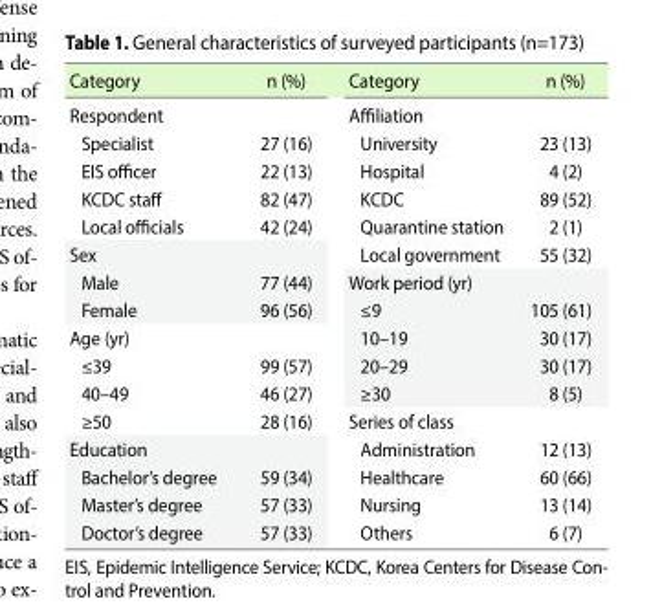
<table><thead><tr><td>Category</td><td>n (%)</td><td>Category</td><td>n (%)</td></tr></thead><tbody><tr><td>Respondent</td><td></td><td>Affiliation</td><td></td></tr><tr><td>Specialist</td><td>27 (16)</td><td>University</td><td>23 (13)</td></tr><tr><td>EIS officer</td><td>22 (13)</td><td>Hospital</td><td>4 (2)</td></tr><tr><td>KCDC staff</td><td>82 (47)</td><td>KCDC</td><td>89 (52)</td></tr><tr><td>Local officials</td><td>42 (24)</td><td>Quarantine station</td><td>2 (1)</td></tr><tr><td>Sex</td><td></td><td>Local government</td><td>55 (32)</td></tr><tr><td>Male</td><td>77 (44)</td><td>Work period (yr)</td><td></td></tr><tr><td>Female</td><td>96 (56)</td><td>≤9</td><td>105 (61)</td></tr><tr><td>Age (yr)</td><td></td><td>10–19</td><td>30 (17)</td></tr><tr><td>≤39</td><td>99 (57)</td><td>20–29</td><td>30 (17)</td></tr><tr><td>40–49</td><td>46 (27)</td><td>≥30</td><td>8 (5)</td></tr><tr><td>≥50</td><td>28 (16)</td><td>Series of class</td><td></td></tr><tr><td>Education</td><td></td><td>Administration</td><td>12 (13)</td></tr><tr><td>Bachelor’s degree</td><td>59 (34)</td><td>Healthcare</td><td>60 (66)</td></tr><tr><td>Master’s degree</td><td>57 (33)</td><td>Nursing</td><td>13 (14)</td></tr><tr><td>Doctor’s degree</td><td>57 (33)</td><td>Others</td><td>6 (7)</td></tr></tbody></table>